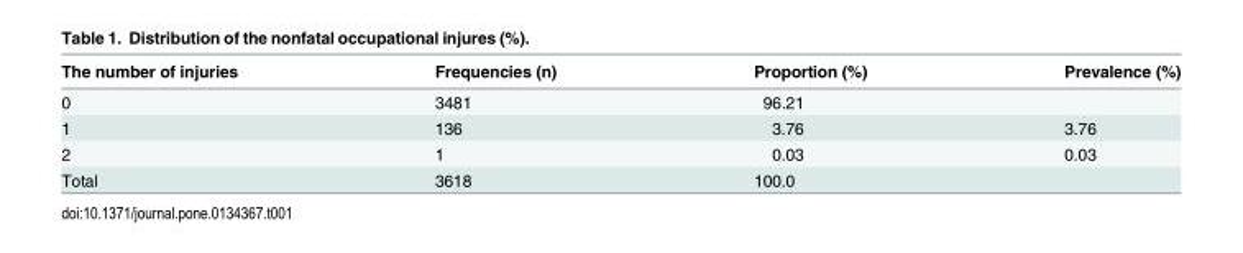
<table><thead><tr><td>The number of injuries</td><td>Frequencies (n)</td><td>Proportion (%)</td><td>Prevalence (%)</td></tr></thead><tbody><tr><td>0</td><td>3481</td><td>96.21</td><td></td></tr><tr><td>1</td><td>136</td><td>3.76</td><td>3.76</td></tr><tr><td>2</td><td>1</td><td>0.03</td><td>0.03</td></tr><tr><td>Total</td><td>3618</td><td>100.0</td><td></td></tr></tbody></table>